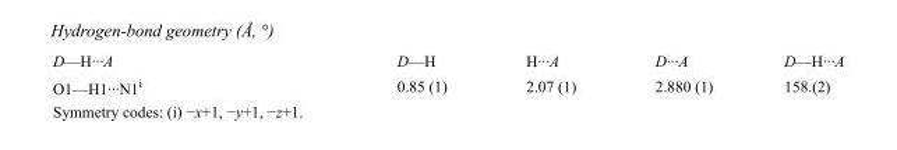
<table><tbody><tr><td>D—H···A</td><td>D—H</td><td>H···A</td><td>D···A</td><td>D—H···A</td></tr><tr><td>O1—H1···N1<sup>i</sup></td><td>0.85 (1)</td><td>2.07 (1)</td><td>2.880 (1)</td><td>158.(2)</td></tr></tbody></table>